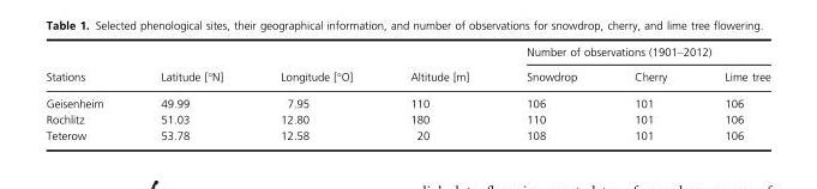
<table><thead><tr><td rowspan="2">Stations</td><td rowspan="2">Latitude [°N]</td><td rowspan="2">Longitude [°O]</td><td rowspan="2">Altitude [m]</td><td colspan="3">Number of observations (1901–2012)</td></tr><tr><td>Snowdrop</td><td>Cherry</td><td>Lime tree</td></tr></thead><tbody><tr><td>Geisenheim</td><td>49.99</td><td>7.95</td><td>110</td><td>106</td><td>101</td><td>106</td></tr><tr><td>Rochlitz</td><td>51.03</td><td>12.80</td><td>180</td><td>110</td><td>101</td><td>106</td></tr><tr><td>Teterow</td><td>53.78</td><td>12.58</td><td>20</td><td>108</td><td>101</td><td>106</td></tr></tbody></table>